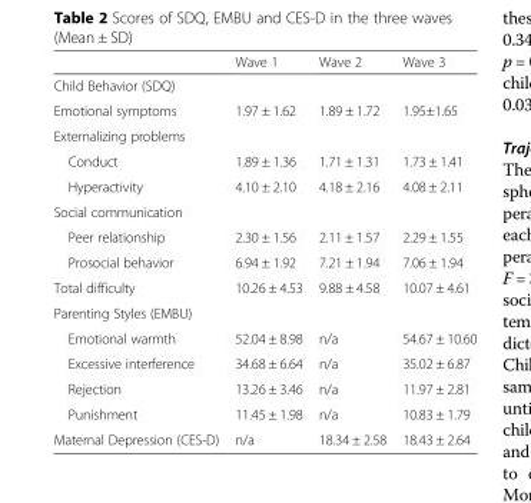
<table><thead><tr><td></td><td>Wave 1</td><td>Wave 2</td><td>Wave 3</td></tr></thead><tbody><tr><td colspan="4">Child Behavior (SDQ)</td></tr><tr><td>Emotional symptoms</td><td>1.97 ± 1.62</td><td>1.89 ± 1.72</td><td>1.95±1.65</td></tr><tr><td colspan="4">Externalizing problems</td></tr><tr><td>Conduct</td><td>1.89 ± 1.36</td><td>1.71 ± 1.31</td><td>1.73 ± 1.41</td></tr><tr><td>Hyperactivity</td><td>4.10 ± 2.10</td><td>4.18 ± 2.16</td><td>4.08 ± 2.11</td></tr><tr><td colspan="4">Social communication</td></tr><tr><td>Peer relationship</td><td>2.30 ± 1.56</td><td>2.11 ± 1.57</td><td>2.29 ± 1.55</td></tr><tr><td>Prosocial behavior</td><td>6.94 ± 1.92</td><td>7.21 ± 1.94</td><td>7.06 ± 1.94</td></tr><tr><td>Total difficulty</td><td>10.26 ± 4.53</td><td>9.88 ± 4.58</td><td>10.07 ± 4.61</td></tr><tr><td colspan="4">Parenting Styles (EMBU)</td></tr><tr><td>Emotional warmth</td><td>52.04 ± 8.98</td><td>n/a</td><td>54.67 ± 10.60</td></tr><tr><td>Excessive interference</td><td>34.68 ± 6.64</td><td>n/a</td><td>35.02 ± 6.87</td></tr><tr><td>Rejection</td><td>13.26 ± 3.46</td><td>n/a</td><td>11.97 ± 2.81</td></tr><tr><td>Punishment</td><td>11.45 ± 1.98</td><td>n/a</td><td>10.83 ± 1.79</td></tr><tr><td>Maternal Depression (CES-D)</td><td>n/a</td><td>18.34 ± 2.58</td><td>18.43 ± 2.64</td></tr></tbody></table>